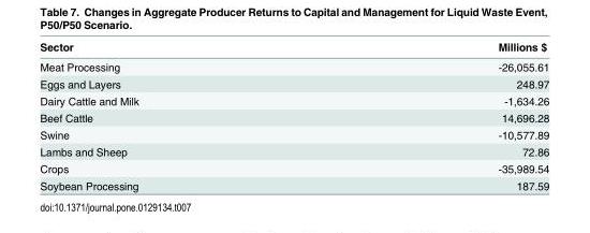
<table><thead><tr><td>Sector</td><td>Millions $</td></tr></thead><tbody><tr><td>Meat Processing</td><td>-26,055.61</td></tr><tr><td>Eggs and Layers</td><td>248.97</td></tr><tr><td>Dairy Cattle and Milk</td><td>-1,634.26</td></tr><tr><td>Beef Cattle</td><td>14,696.28</td></tr><tr><td>Swine</td><td>-10,577.89</td></tr><tr><td>Lambs and Sheep</td><td>72.86</td></tr><tr><td>Crops</td><td>-35,989.54</td></tr><tr><td>Soybean Processing</td><td>187.59</td></tr></tbody></table>